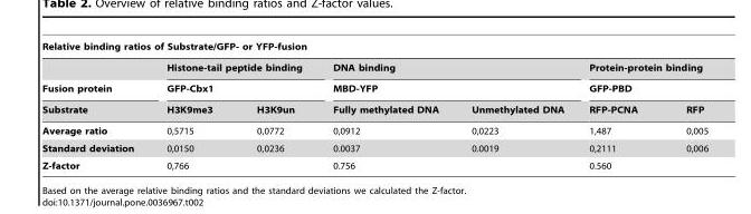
<table><thead><tr><td colspan="7">Relative binding ratios of Substrate/GFP- or YFP-fusion</td></tr><tr><td rowspan="3">Fusion protein Substrate</td><td rowspan="2" colspan="2">Histone-tail peptide binding GFP-Cbx1</td><td rowspan="2" colspan="2">DNA binding MBD-YFP</td><td rowspan="2" colspan="2">Protein-protein binding GFP-PBD</td></tr><tr></tr><tr><td>H3K9me3</td><td>H3K9un</td><td>Fully methylated DNA</td><td>Unmethylated DNA</td><td>RFP-PCNA</td><td>RFP</td></tr></thead><tbody><tr><td>Average ratio</td><td>0,5715</td><td>0,0772</td><td>0,0912</td><td>0,0223</td><td>1,487</td><td>0,005</td></tr><tr><td>Standard deviation</td><td>0,0150</td><td>0,0236</td><td>0.0037</td><td>0.0019</td><td>0,2111</td><td>0,006</td></tr><tr><td>Z-factor</td><td colspan="2">0,766</td><td colspan="2">0.756</td><td colspan="2">0.560</td></tr></tbody></table>